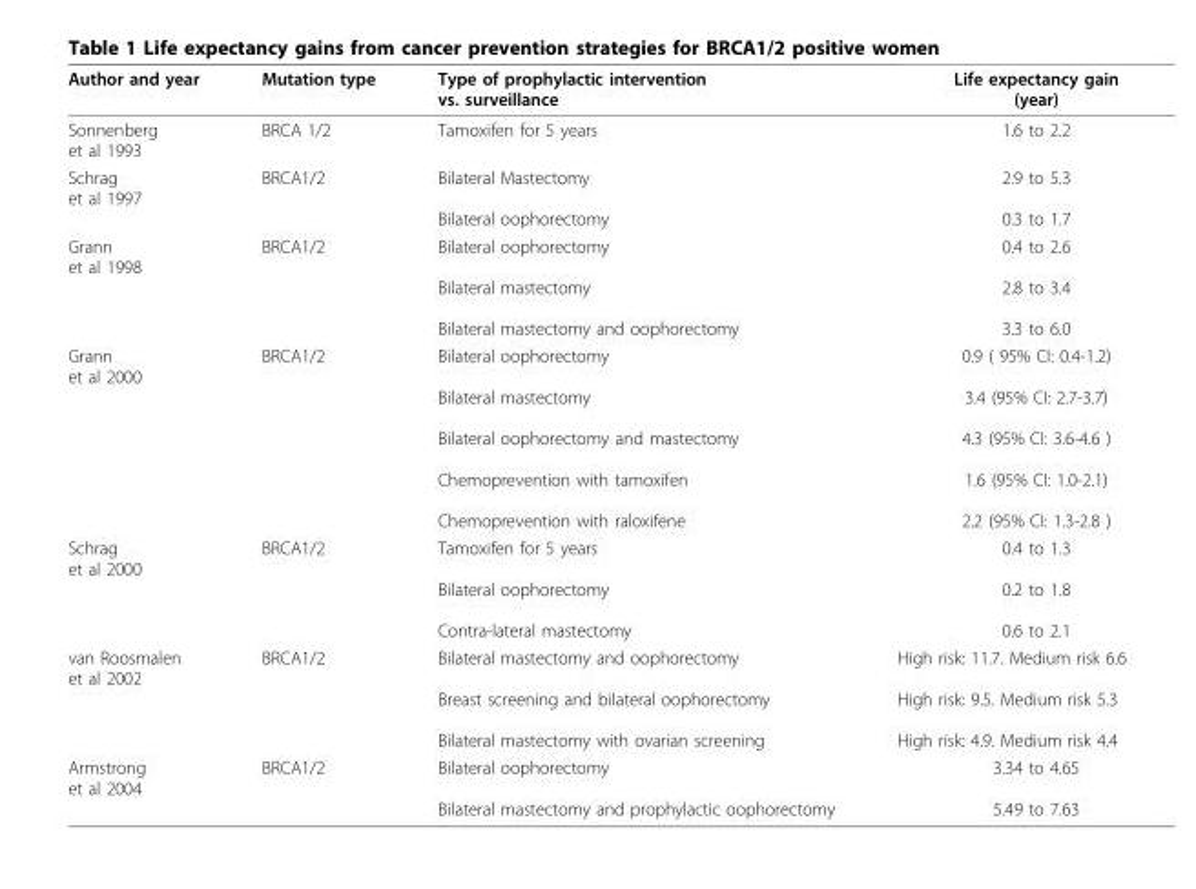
<table><thead><tr><td>Author and year</td><td>Mutation type</td><td>Type of prophylactic intervention vs. surveillance</td><td>Life expectancy gain (year)</td></tr></thead><tbody><tr><td>Sonnenberg et al 1993</td><td>BRCA 1/2</td><td>Tamoxifen for 5 years</td><td>1.6 to 2.2</td></tr><tr><td>Schrag et al 1997</td><td>BRCA1/2</td><td>Bilateral Mastectomy Bilateral oophorectomy</td><td>2.9 to 5.3 0.3 to 1.7</td></tr><tr><td>Grann et al 1998</td><td>BRCA1/2</td><td>Bilateral oophorectomy Bilateral mastectomy Bilateral mastectomy and oophorectomy</td><td>0.4 to 2.6 2.8 to 3.4 3.3 to 6.0</td></tr><tr><td>Grann et al 2000</td><td>BRCA1/2</td><td>Bilateral oophorectomy Bilateral mastectomy Bilateral oophorectomy and mastectomy Chemoprevention with tamoxifen Chemoprevention with raloxifene</td><td>0.9 ( 95% CI: 0.4-1.2) 3.4 (95% CI: 2.7-3.7) 4.3 (95% CI: 3.6-4.6 ) 1.6 (95% CI: 1.0-2.1) 2.2 (95% CI: 1.3-2.8 )</td></tr><tr><td>Schrag et al 2000</td><td>BRCA1/2</td><td>Tamoxifen for 5 years Bilateral oophorectomy Contra-lateral mastectomy</td><td>0.4 to 1.3 0.2 to 1.8 0.6 to 2.1</td></tr><tr><td>van Roosmalen et al 2002</td><td>BRCA1/2</td><td>Bilateral mastectomy and oophorectomy Breast screening and bilateral oophorectomy Bilateral mastectomy with ovarian screening</td><td>High risk: 11.7. Medium risk 6.6 High risk: 9.5. Medium risk 5.3 High risk: 4.9. Medium risk 4.4</td></tr><tr><td>Armstrong et al 2004</td><td>BRCA1/2</td><td>Bilateral oophorectomy Bilateral mastectomy and prophylactic oophorectomy</td><td>3.34 to 4.65 5.49 to 7.63</td></tr></tbody></table>